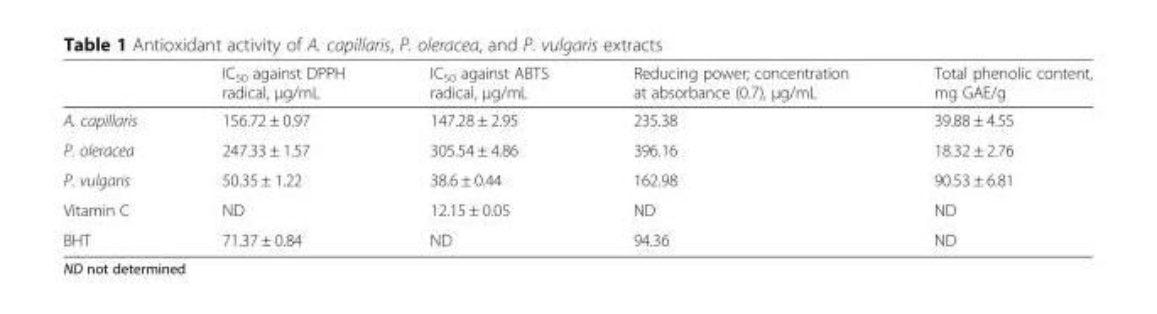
<table><thead><tr><td></td><td>IC<sub>50</sub> against DPPH radical, μg/mL</td><td>IC<sub>50</sub> against ABTS radical, μg/mL</td><td>Reducing power; concentration at absorbance (0.7), μg/mL</td><td>Total phenolic content, mg GAE/g</td></tr></thead><tbody><tr><td>A. capillaris</td><td>156.72 ± 0.97</td><td>147.28 ± 2.95</td><td>235.38</td><td>39.88 ± 4.55</td></tr><tr><td>P. oleracea</td><td>247.33 ± 1.57</td><td>305.54 ± 4.86</td><td>396.16</td><td>18.32 ± 2.76</td></tr><tr><td>P. vulgaris</td><td>50.35 ± 1.22</td><td>38.6 ± 0.44</td><td>162.98</td><td>90.53 ± 6.81</td></tr><tr><td>Vitamin C</td><td>ND</td><td>12.15 ± 0.05</td><td>ND</td><td>ND</td></tr><tr><td>BHT</td><td>71.37 ± 0.84</td><td>ND</td><td>94.36</td><td>ND</td></tr></tbody></table>